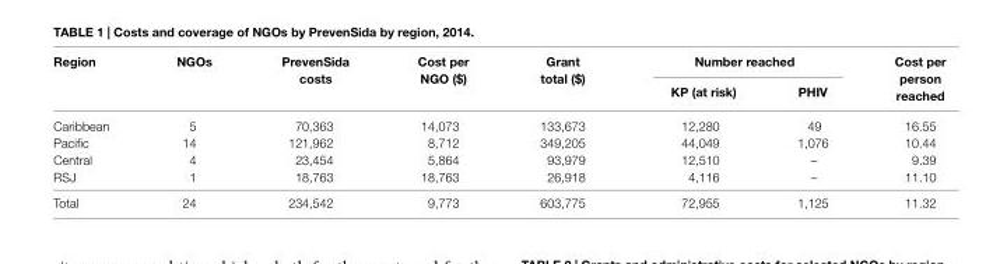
<table><thead><tr><td rowspan="2">region</td><td rowspan="2">ngOs</td><td rowspan="2">Prevensida costs</td><td rowspan="2">cost per ngO ($)</td><td rowspan="2">grant total ($)</td><td colspan="2">number reached</td><td rowspan="2">cost per person reached</td></tr><tr><td>KP (at risk)</td><td>PhiV</td></tr></thead><tbody><tr><td>Caribbean</td><td>5</td><td>70,363</td><td>14,073</td><td>133,673</td><td>12,280</td><td>49</td><td>16.55</td></tr><tr><td>Pacific</td><td>14</td><td>121,962</td><td>8,712</td><td>349,205</td><td>44,049</td><td>1,076</td><td>10.44</td></tr><tr><td>Central</td><td>4</td><td>23,454</td><td>5,864</td><td>93,979</td><td>12,510</td><td>–</td><td>9.39</td></tr><tr><td>RSJ</td><td>1</td><td>18,763</td><td>18,763</td><td>26,918</td><td>4,116</td><td>–</td><td>11.10</td></tr><tr><td>Total</td><td>24</td><td>234,542</td><td>9,773</td><td>603,775</td><td>72,955</td><td>1,125</td><td>11.32</td></tr></tbody></table>